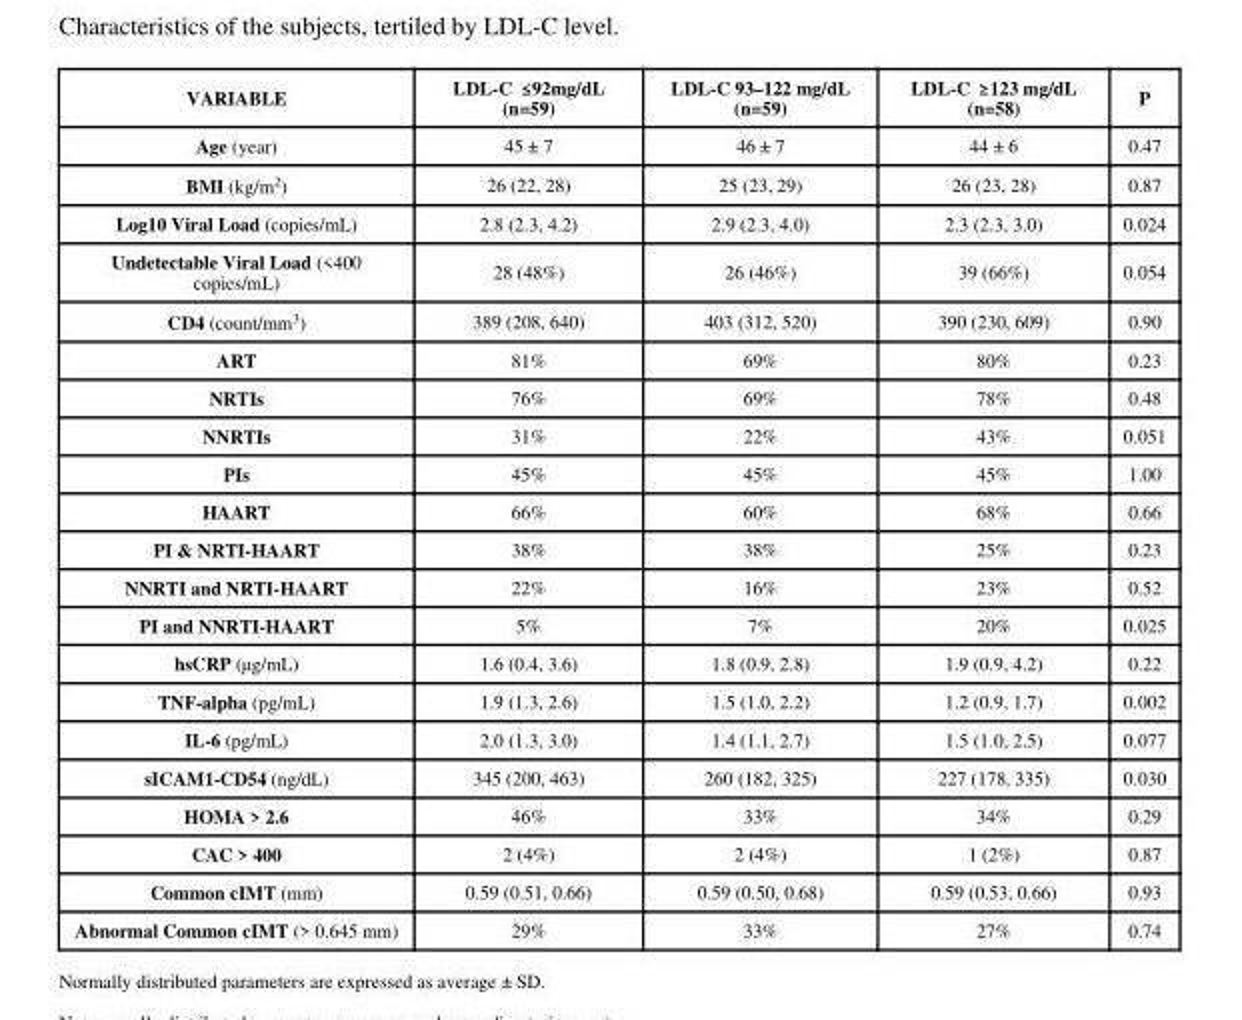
<table><thead><tr><td>VARIABLE</td><td>LDL-C ≤ 92mg/dL (n=59)</td><td>LDL-C 93–122 mg/dL (n=59)</td><td>LDL-C ≥ 123 mg/dL (n=58)</td><td>P</td></tr></thead><tbody><tr><td>Age (year)</td><td>45 ± 7</td><td>46 ± 7</td><td>44 ± 6</td><td>0.47</td></tr><tr><td>BMI (kg/m<sup>2</sup>)</td><td>26 (22, 28)</td><td>25 (23, 29)</td><td>26 (23, 28)</td><td>0.87</td></tr><tr><td>Log10 Viral Load (copies/mL)</td><td>2.8 (2.3, 4.2)</td><td>2.9 (2.3, 4.0)</td><td>2.3 (2.3, 3.0)</td><td>0.024</td></tr><tr><td>Undetectable Viral Load (&lt;400 copies/mL)</td><td>28 (48%)</td><td>26 (46%)</td><td>39 (66%)</td><td>0.054</td></tr><tr><td>CD4 (count/mm<sup>3</sup>)</td><td>389 (208, 640)</td><td>403 (312, 520)</td><td>390 (230, 609)</td><td>0.90</td></tr><tr><td>ART</td><td>81%</td><td>69%</td><td>80%</td><td>0.23</td></tr><tr><td>NRTIs</td><td>76%</td><td>69%</td><td>78%</td><td>0.48</td></tr><tr><td>NNRTIs</td><td>31%</td><td>22%</td><td>43%</td><td>0.051</td></tr><tr><td>PIs</td><td>45%</td><td>45%</td><td>45%</td><td>1.00</td></tr><tr><td>HAART</td><td>66%</td><td>60%</td><td>68%</td><td>0.66</td></tr><tr><td>PI &amp; NRTI-HAART</td><td>38%</td><td>38%</td><td>25%</td><td>0.23</td></tr><tr><td>NNRTI and NRTI-HAART</td><td>22%</td><td>16%</td><td>23%</td><td>0.52</td></tr><tr><td>PI and NNRTI-HAART</td><td>5%</td><td>7%</td><td>20%</td><td>0.025</td></tr><tr><td>hsCRP (μg/mL)</td><td>1.6 (0.4, 3.6)</td><td>1.8 (0.9, 2.8)</td><td>1.9 (0.9, 4.2)</td><td>0.22</td></tr><tr><td>TNF-alpha (pg/mL)</td><td>1.9 (1.3, 2.6)</td><td>1.5 (1.0, 2.2)</td><td>1.2 (0.9, 1.7)</td><td>0.002</td></tr><tr><td>IL-6 (pg/mL)</td><td>2.0 (1.3, 3.0)</td><td>1.4 (1.1, 2.7)</td><td>1.5 (1.0, 2.5)</td><td>0.077</td></tr><tr><td>sICAM1-CD54 (ng/dL)</td><td>345 (200, 463)</td><td>260 (182, 325)</td><td>227 (178, 335)</td><td>0.030</td></tr><tr><td>HOMA &gt; 2.6</td><td>46%</td><td>33%</td><td>34%</td><td>0.29</td></tr><tr><td>CAC &gt; 400</td><td>2 (4%)</td><td>2 (4%)</td><td>1 (2%)</td><td>0.87</td></tr><tr><td>Common cIMT (mm)</td><td>0.59 (0.51, 0.66)</td><td>0.59 (0.50, 0.68)</td><td>0.59 (0.53, 0.66)</td><td>0.93</td></tr><tr><td>Abnormal Common cIMT (&gt; 0.645 mm)</td><td>29%</td><td>33%</td><td>27%</td><td>0.74</td></tr></tbody></table>